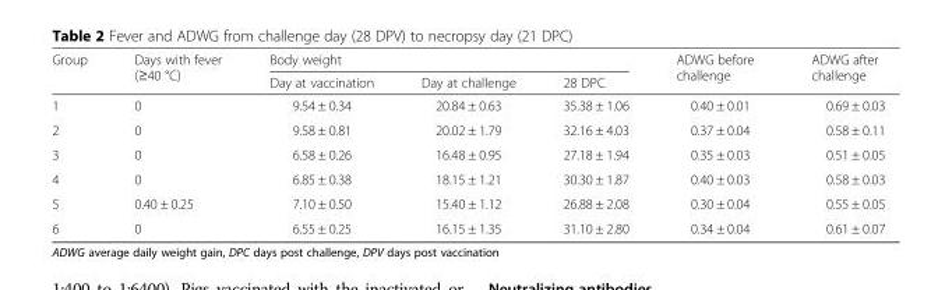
<table><thead><tr><td rowspan="2">Group</td><td rowspan="2">Days with fever (≥40 °C)</td><td colspan="3">Body weight</td><td rowspan="2">ADWG before challenge</td><td rowspan="2">ADWG after challenge</td></tr><tr><td>Day at vaccination</td><td>Day at challenge</td><td>28 DPC</td></tr></thead><tbody><tr><td>1</td><td>0</td><td>9.54 ± 0.34</td><td>20.84 ± 0.63</td><td>35.38 ± 1.06</td><td>0.40 ± 0.01</td><td>0.69 ± 0.03</td></tr><tr><td>2</td><td>0</td><td>9.58 ± 0.81</td><td>20.02 ± 1.79</td><td>32.16 ± 4.03</td><td>0.37 ± 0.04</td><td>0.58 ± 0.11</td></tr><tr><td>3</td><td>0</td><td>6.58 ± 0.26</td><td>16.48 ± 0.95</td><td>27.18 ± 1.94</td><td>0.35 ± 0.03</td><td>0.51 ± 0.05</td></tr><tr><td>4</td><td>0</td><td>6.85 ± 0.38</td><td>18.15 ± 1.21</td><td>30.30 ± 1.87</td><td>0.40 ± 0.03</td><td>0.58 ± 0.03</td></tr><tr><td>5</td><td>0.40 ± 0.25</td><td>7.10 ± 0.50</td><td>15.40 ± 1.12</td><td>26.88 ± 2.08</td><td>0.30 ± 0.04</td><td>0.55 ± 0.05</td></tr><tr><td>6</td><td>0</td><td>6.55 ± 0.25</td><td>16.15 ± 1.35</td><td>31.10 ± 2.80</td><td>0.34 ± 0.04</td><td>0.61 ± 0.07</td></tr></tbody></table>